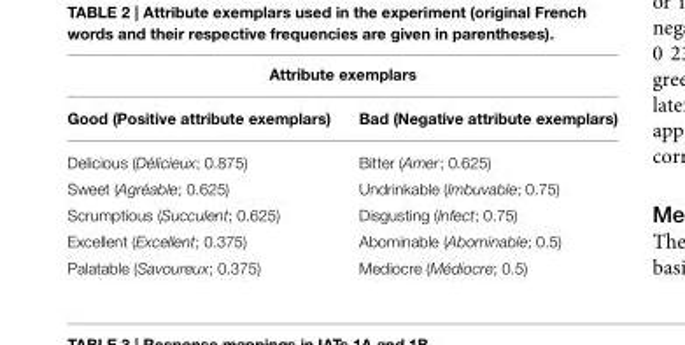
<table><thead><tr><td colspan="2">Attribute exemplars</td></tr><tr><td>Good (Positive attribute exemplars)</td><td>Bad (Negative attribute exemplars)</td></tr></thead><tbody><tr><td>Delicious (Délicieux; 0.875)</td><td>Bitter (Amer; 0.625)</td></tr><tr><td>Sweet (Agréable; 0.625)</td><td>Undrinkable (Imbuvable; 0.75)</td></tr><tr><td>Scrumptious (Succulent; 0.625)</td><td>Disgusting (Infect; 0.75)</td></tr><tr><td>Excellent (Excellent; 0.375)</td><td>Abominable (Abominable; 0.5)</td></tr><tr><td>Palatable (Savoureux; 0.375)</td><td>Mediocre (Médiocre; 0.5)</td></tr></tbody></table>